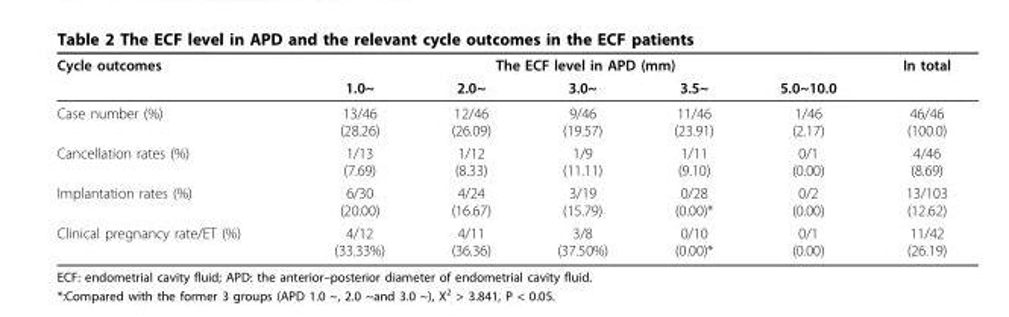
<table><thead><tr><td rowspan="2">Cycle outcomes</td><td colspan="5">The ECF level in APD (mm)</td><td rowspan="2">In total</td></tr><tr><td>1.0~</td><td>2.0~</td><td>3.0~</td><td>3.5~</td><td>5.0~10.0</td></tr></thead><tbody><tr><td>Case number (%)</td><td>13/46 (28.26)</td><td>12/46 (26.09)</td><td>9/46 (19.57)</td><td>11/46 (23.91)</td><td>1/46 (2.17)</td><td>46/46 (100.0)</td></tr><tr><td>Cancellation rates (%)</td><td>1/13 (7.69)</td><td>1/12 (8.33)</td><td>1/9 (11.11)</td><td>1/11 (9.10)</td><td>0/1 (0.00)</td><td>4/46 (8.69)</td></tr><tr><td>Implantation rates (%)</td><td>6/30 (20.00)</td><td>4/24 (16.67)</td><td>3/19 (15.79)</td><td>0/28 (0.00)*</td><td>0/2 (0.00)</td><td>13/103 (12.62)</td></tr><tr><td>Clinical pregnancy rate/ET (%)</td><td>4/12 (33.33%)</td><td>4/11 (36.36)</td><td>3/8 (37.50%)</td><td>0/10 (0.00)*</td><td>0/1 (0.00)</td><td>11/42 (26.19)</td></tr></tbody></table>